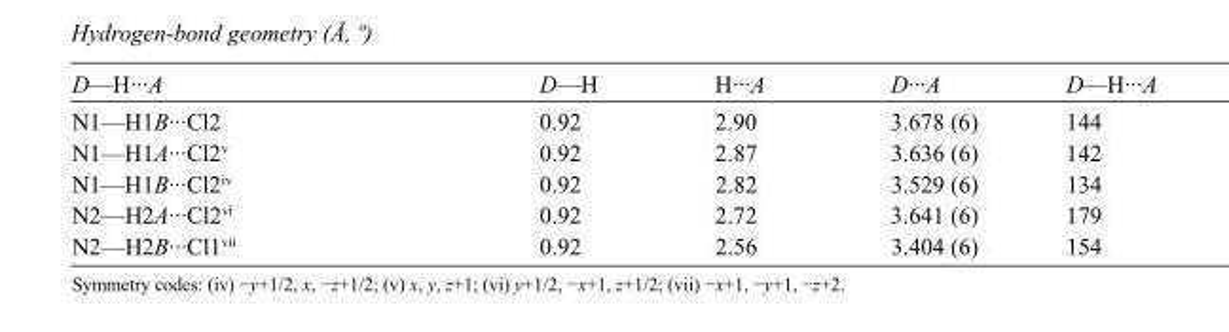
<table><tbody><tr><td>D—H···A</td><td>D—H</td><td>H···A</td><td>D···A</td><td>D—H···A</td></tr><tr><td>N1—H1B···Cl2</td><td>0.92</td><td>2.90</td><td>3.678 (6)</td><td>144</td></tr><tr><td>N1—H1A···Cl2<sup>v</sup></td><td>0.92</td><td>2.87</td><td>3.636 (6)</td><td>142</td></tr><tr><td>N1—H1B···Cl2<sup>iv</sup></td><td>0.92</td><td>2.82</td><td>3.529 (6)</td><td>134</td></tr><tr><td>N2—H2A···Cl2<sup>vi</sup></td><td>0.92</td><td>2.72</td><td>3.641 (6)</td><td>179</td></tr><tr><td>N2—H2B···Cl1<sup>vii</sup></td><td>0.92</td><td>2.56</td><td>3.404 (6)</td><td>154</td></tr></tbody></table>